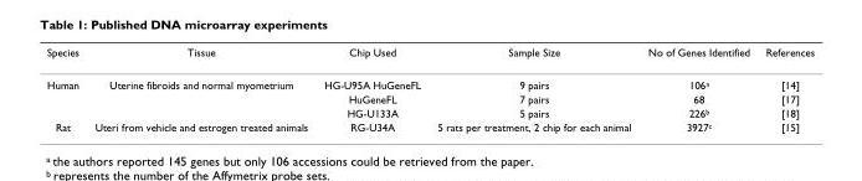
<table><thead><tr><td>Species</td><td>Tissue</td><td>Chip Used</td><td>Sample Size</td><td>No of Genes Identified</td><td>References</td></tr></thead><tbody><tr><td rowspan="3">Human</td><td>Uterine fibroids and normal myometrium</td><td>HG-U95A HuGeneFL</td><td>9 pairs</td><td>106<sup>a</sup></td><td>[14]</td></tr><tr><td></td><td>HuGeneFL</td><td>7 pairs</td><td>68</td><td>[17]</td></tr><tr><td></td><td>HG-U133A</td><td>5 pairs</td><td>226<sup>b</sup></td><td>[18]</td></tr><tr><td>Rat</td><td>Uteri from vehicle and estrogen treated animals</td><td>RG-U34A</td><td>5 rats per treatment, 2 chip for each animal</td><td>3927<sup>c</sup></td><td>[15]</td></tr></tbody></table>